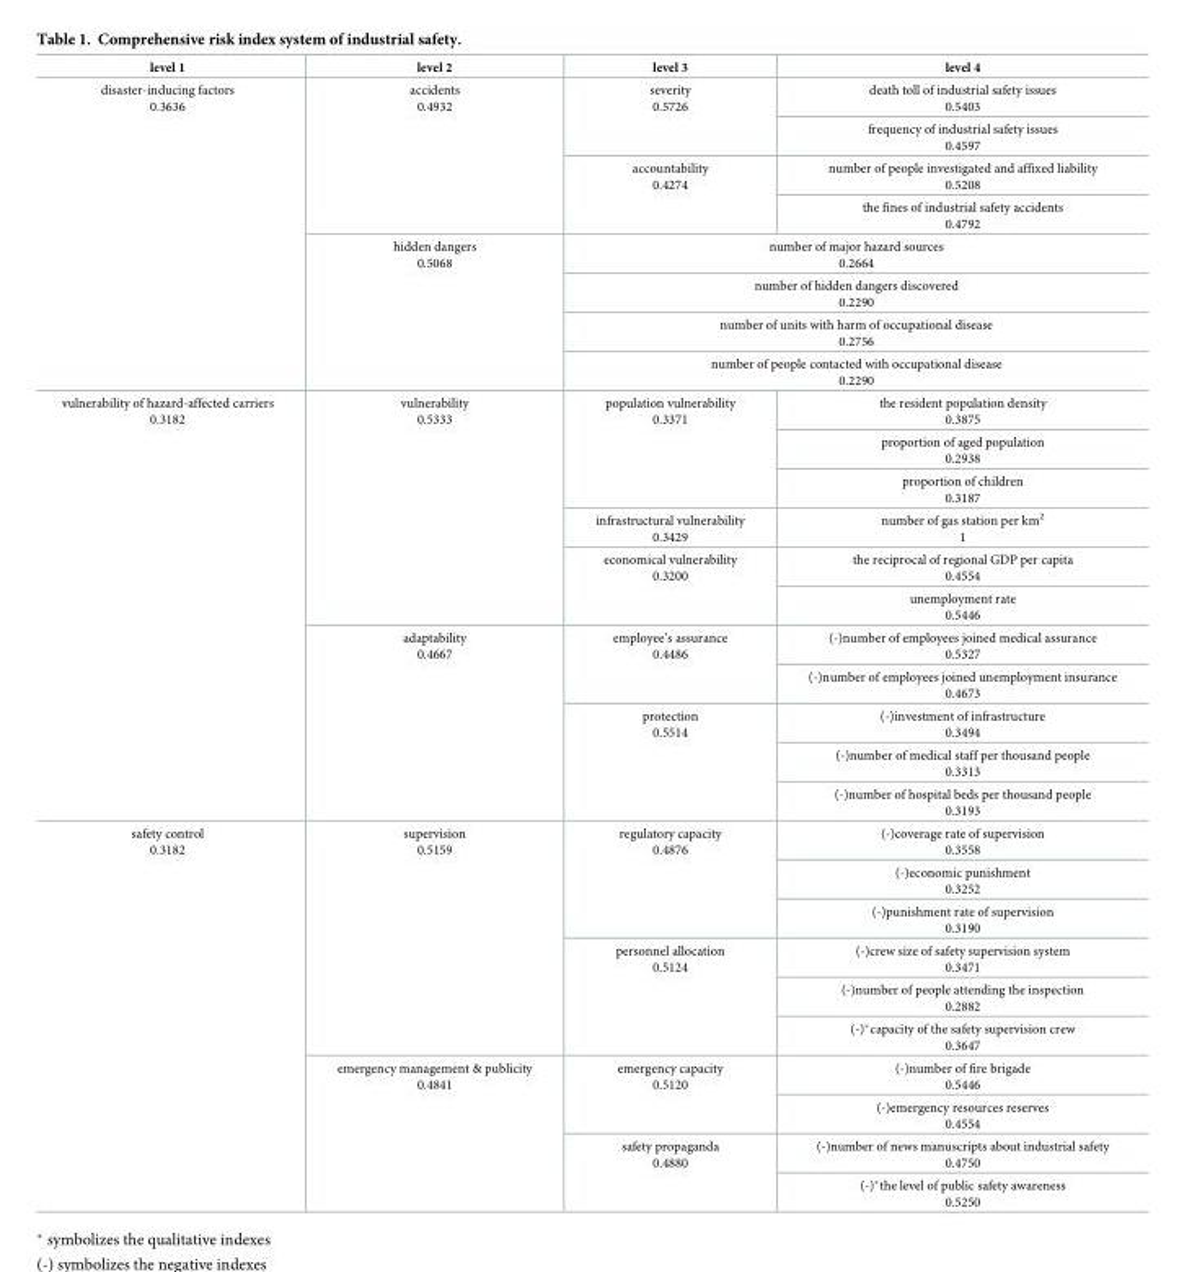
<table><thead><tr><td>level 1</td><td>level 2</td><td>level 3</td><td>level 4</td></tr></thead><tbody><tr><td rowspan="8">disaster-inducing factors 0.3636</td><td rowspan="4">accidents 0.4932</td><td rowspan="2">severity 0.5726</td><td>death toll of industrial safety issues 0.5403</td></tr><tr><td>frequency of industrial safety issues 0.4597</td></tr><tr><td rowspan="2">accountability 0.4274</td><td>number of people investigated and affixed liability 0.5208</td></tr><tr><td>the fines of industrial safety accidents 0.4792</td></tr><tr><td rowspan="4">hidden dangers 0.5068</td><td colspan="2">number of major hazard sources 0.2664</td></tr><tr><td colspan="2">number of hidden dangers discovered 0.2290</td></tr><tr><td colspan="2">number of units with harm of occupational disease 0.2756</td></tr><tr><td colspan="2">number of people contacted with occupational disease 0.2290</td></tr><tr><td rowspan="11">vulnerability of hazard-affected carriers 0.3182</td><td rowspan="6">vulnerability 0.5333</td><td rowspan="3">population vulnerability 0.3371</td><td>the resident population density 0.3875</td></tr><tr><td>proportion of aged population 0.2938</td></tr><tr><td>proportion of children 0.3187</td></tr><tr><td>infrastructural vulnerability 0.3429</td><td>number of gas station per km<sup>2</sup> 1</td></tr><tr><td rowspan="2">economical vulnerability 0.3200</td><td>the reciprocal of regional GDP per capita 0.4554</td></tr><tr><td>unemployment rate 0.5446</td></tr><tr><td rowspan="5">adaptability 0.4667</td><td rowspan="2">employee’s assurance 0.4486</td><td>(-)number of employees joined medical assurance 0.5327</td></tr><tr><td>(-)number of employees joined unemployment insurance 0.4673</td></tr><tr><td rowspan="3">protection 0.5514</td><td>(-)investment of infrastructure 0.3494</td></tr><tr><td>(-)number of medical staff per thousand people 0.3313</td></tr><tr><td>(-)number of hospital beds per thousand people 0.3193</td></tr><tr><td rowspan="10">safety control 0.3182</td><td rowspan="6">supervision 0.5159</td><td rowspan="3">regulatory capacity 0.4876</td><td>(-)coverage rate of supervision 0.3558</td></tr><tr><td>(-)economic punishment 0.3252</td></tr><tr><td>(-)punishment rate of supervision 0.3190</td></tr><tr><td rowspan="3">personnel allocation 0.5124</td><td>(-)crew size of safety supervision system 0.3471</td></tr><tr><td>(-)number of people attending the inspection 0.2882</td></tr><tr><td>(-)*capacity of the safety supervision crew 0.3647</td></tr><tr><td rowspan="4">emergency management &amp; publicity 0.4841</td><td rowspan="2">emergency capacity 0.5120</td><td>(-)number of fire brigade 0.5446</td></tr><tr><td>(-)emergency resources reserves 0.4554</td></tr><tr><td rowspan="2">safety propaganda 0.4880</td><td>(-)number of news manuscripts about industrial safety 0.4750</td></tr><tr><td>(-)*the level of public safety awareness 0.5250</td></tr></tbody></table>